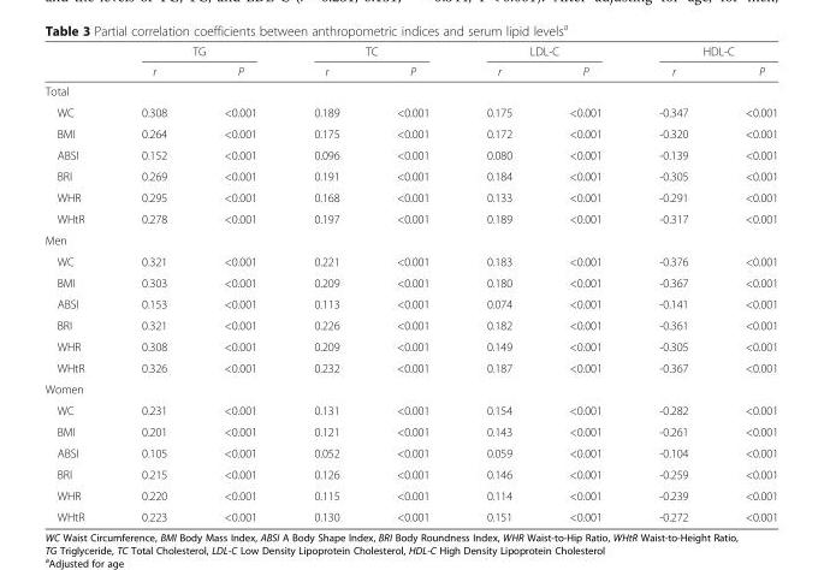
<table><thead><tr><td rowspan="2"></td><td colspan="2">TG</td><td colspan="2">TC</td><td colspan="2">LDL-C</td><td colspan="2">HDL-C</td></tr><tr><td>r</td><td>P</td><td>r</td><td>P</td><td>r</td><td>P</td><td>r</td><td>P</td></tr></thead><tbody><tr><td colspan="9">Total</td></tr><tr><td>WC</td><td>0.308</td><td>&lt;0.001</td><td>0.189</td><td>&lt;0.001</td><td>0.175</td><td>&lt;0.001</td><td>-0.347</td><td>&lt;0.001</td></tr><tr><td>BMI</td><td>0.264</td><td>&lt;0.001</td><td>0.175</td><td>&lt;0.001</td><td>0.172</td><td>&lt;0.001</td><td>-0.320</td><td>&lt;0.001</td></tr><tr><td>ABSI</td><td>0.152</td><td>&lt;0.001</td><td>0.096</td><td>&lt;0.001</td><td>0.080</td><td>&lt;0.001</td><td>-0.139</td><td>&lt;0.001</td></tr><tr><td>BRI</td><td>0.269</td><td>&lt;0.001</td><td>0.191</td><td>&lt;0.001</td><td>0.184</td><td>&lt;0.001</td><td>-0.305</td><td>&lt;0.001</td></tr><tr><td>WHR</td><td>0.295</td><td>&lt;0.001</td><td>0.168</td><td>&lt;0.001</td><td>0.133</td><td>&lt;0.001</td><td>-0.291</td><td>&lt;0.001</td></tr><tr><td>WHtR</td><td>0.278</td><td>&lt;0.001</td><td>0.197</td><td>&lt;0.001</td><td>0.189</td><td>&lt;0.001</td><td>-0.317</td><td>&lt;0.001</td></tr><tr><td colspan="9">Men</td></tr><tr><td>WC</td><td>0.321</td><td>&lt;0.001</td><td>0.221</td><td>&lt;0.001</td><td>0.183</td><td>&lt;0.001</td><td>-0.376</td><td>&lt;0.001</td></tr><tr><td>BMI</td><td>0.303</td><td>&lt;0.001</td><td>0.209</td><td>&lt;0.001</td><td>0.180</td><td>&lt;0.001</td><td>-0.367</td><td>&lt;0.001</td></tr><tr><td>ABSI</td><td>0.153</td><td>&lt;0.001</td><td>0.113</td><td>&lt;0.001</td><td>0.074</td><td>&lt;0.001</td><td>-0.141</td><td>&lt;0.001</td></tr><tr><td>BRI</td><td>0.321</td><td>&lt;0.001</td><td>0.226</td><td>&lt;0.001</td><td>0.182</td><td>&lt;0.001</td><td>-0.361</td><td>&lt;0.001</td></tr><tr><td>WHR</td><td>0.308</td><td>&lt;0.001</td><td>0.209</td><td>&lt;0.001</td><td>0.149</td><td>&lt;0.001</td><td>-0.305</td><td>&lt;0.001</td></tr><tr><td>WHtR</td><td>0.326</td><td>&lt;0.001</td><td>0.232</td><td>&lt;0.001</td><td>0.187</td><td>&lt;0.001</td><td>-0.367</td><td>&lt;0.001</td></tr><tr><td colspan="9">Women</td></tr><tr><td>WC</td><td>0.231</td><td>&lt;0.001</td><td>0.131</td><td>&lt;0.001</td><td>0.154</td><td>&lt;0.001</td><td>-0.282</td><td>&lt;0.001</td></tr><tr><td>BMI</td><td>0.201</td><td>&lt;0.001</td><td>0.121</td><td>&lt;0.001</td><td>0.143</td><td>&lt;0.001</td><td>-0.261</td><td>&lt;0.001</td></tr><tr><td>ABSI</td><td>0.105</td><td>&lt;0.001</td><td>0.052</td><td>&lt;0.001</td><td>0.059</td><td>&lt;0.001</td><td>-0.104</td><td>&lt;0.001</td></tr><tr><td>BRI</td><td>0.215</td><td>&lt;0.001</td><td>0.126</td><td>&lt;0.001</td><td>0.146</td><td>&lt;0.001</td><td>-0.259</td><td>&lt;0.001</td></tr><tr><td>WHR</td><td>0.220</td><td>&lt;0.001</td><td>0.115</td><td>&lt;0.001</td><td>0.114</td><td>&lt;0.001</td><td>-0.239</td><td>&lt;0.001</td></tr><tr><td>WHtR</td><td>0.223</td><td>&lt;0.001</td><td>0.130</td><td>&lt;0.001</td><td>0.151</td><td>&lt;0.001</td><td>-0.272</td><td>&lt;0.001</td></tr></tbody></table>